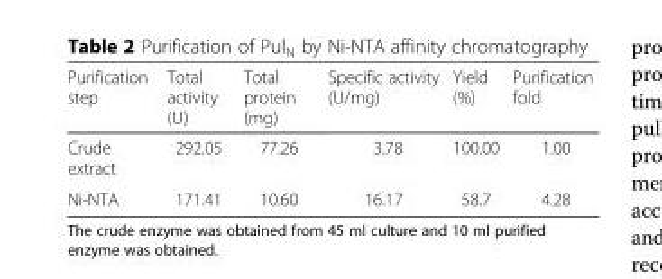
<table><thead><tr><td>Purification step</td><td>Total activity (U)</td><td>Total protein (mg)</td><td>Specific activity (U/mg)</td><td>Yield (%)</td><td>Purification fold</td></tr></thead><tbody><tr><td>Crude extract</td><td>292.05</td><td>77.26</td><td>3.78</td><td>100.00</td><td>1.00</td></tr><tr><td>Ni-NTA</td><td>171.41</td><td>10.60</td><td>16.17</td><td>58.7</td><td>4.28</td></tr></tbody></table>